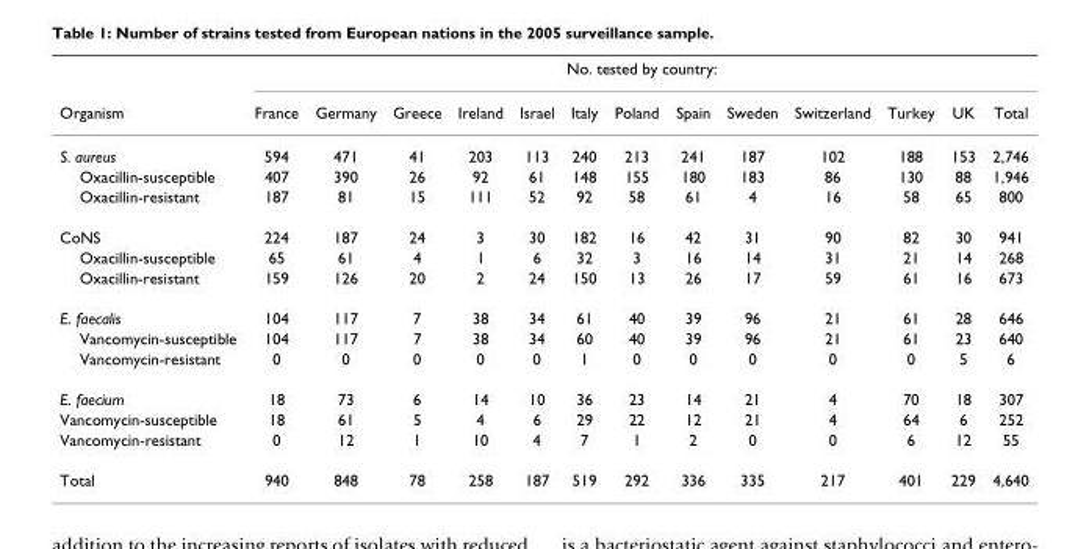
<table><thead><tr><td rowspan="2">Organism</td><td colspan="13">No. tested by country:</td></tr><tr><td>France</td><td>Germany</td><td>Greece</td><td>Ireland</td><td>Israel</td><td>Italy</td><td>Poland</td><td>Spain</td><td>Sweden</td><td>Switzerland</td><td>Turkey</td><td>UK</td><td>Total</td></tr></thead><tbody><tr><td>S. aureus</td><td>594</td><td>471</td><td>41</td><td>203</td><td>113</td><td>240</td><td>213</td><td>241</td><td>187</td><td>102</td><td>188</td><td>153</td><td>2,746</td></tr><tr><td>Oxacillin-susceptible</td><td>407</td><td>390</td><td>26</td><td>92</td><td>61</td><td>148</td><td>155</td><td>180</td><td>183</td><td>86</td><td>130</td><td>88</td><td>1,946</td></tr><tr><td>Oxacillin-resistant</td><td>187</td><td>81</td><td>15</td><td>111</td><td>52</td><td>92</td><td>58</td><td>61</td><td>4</td><td>16</td><td>58</td><td>65</td><td>800</td></tr><tr><td>CoNS</td><td>224</td><td>187</td><td>24</td><td>3</td><td>30</td><td>182</td><td>16</td><td>42</td><td>31</td><td>90</td><td>82</td><td>30</td><td>941</td></tr><tr><td>Oxacillin-susceptible</td><td>65</td><td>61</td><td>4</td><td>1</td><td>6</td><td>32</td><td>3</td><td>16</td><td>14</td><td>31</td><td>21</td><td>14</td><td>268</td></tr><tr><td>Oxacillin-resistant</td><td>159</td><td>126</td><td>20</td><td>2</td><td>24</td><td>150</td><td>13</td><td>26</td><td>17</td><td>59</td><td>61</td><td>16</td><td>673</td></tr><tr><td>E. faecalis</td><td>104</td><td>117</td><td>7</td><td>38</td><td>34</td><td>61</td><td>40</td><td>39</td><td>96</td><td>21</td><td>61</td><td>28</td><td>646</td></tr><tr><td>Vancomycin-susceptible</td><td>104</td><td>117</td><td>7</td><td>38</td><td>34</td><td>60</td><td>40</td><td>39</td><td>96</td><td>21</td><td>61</td><td>23</td><td>640</td></tr><tr><td>Vancomycin-resistant</td><td>0</td><td>0</td><td>0</td><td>0</td><td>0</td><td>1</td><td>0</td><td>0</td><td>0</td><td>0</td><td>0</td><td>5</td><td>6</td></tr><tr><td>E. faecium</td><td>18</td><td>73</td><td>6</td><td>14</td><td>10</td><td>36</td><td>23</td><td>14</td><td>21</td><td>4</td><td>70</td><td>18</td><td>307</td></tr><tr><td>Vancomycin-susceptible</td><td>18</td><td>61</td><td>5</td><td>4</td><td>6</td><td>29</td><td>22</td><td>12</td><td>21</td><td>4</td><td>64</td><td>6</td><td>252</td></tr><tr><td>Vancomycin-resistant</td><td>0</td><td>12</td><td>1</td><td>10</td><td>4</td><td>7</td><td>1</td><td>2</td><td>0</td><td>0</td><td>6</td><td>12</td><td>55</td></tr><tr><td>Total</td><td>940</td><td>848</td><td>78</td><td>258</td><td>187</td><td>519</td><td>292</td><td>336</td><td>335</td><td>217</td><td>401</td><td>229</td><td>4,640</td></tr></tbody></table>